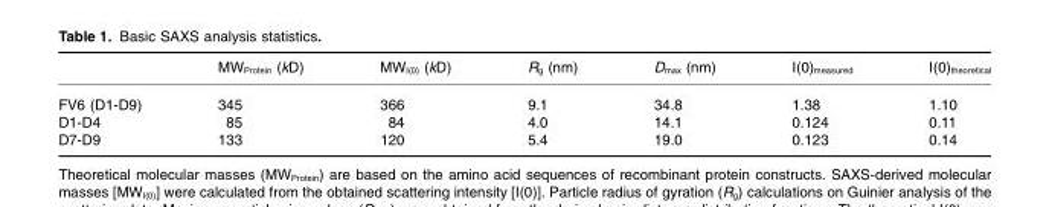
<table><thead><tr><td></td><td>MW<sub>Protein</sub> (kD)</td><td>MW<sub>I(0)</sub> (kD)</td><td>R<sub>g</sub> (nm)</td><td>D<sub>max</sub> (nm)</td><td>I(0)<sub>measured</sub></td><td>I(0)<sub>theoretical</sub></td></tr></thead><tbody><tr><td>FV6 (D1-D9)</td><td>345</td><td>366</td><td>9.1</td><td>34.8</td><td>1.38</td><td>1.10</td></tr><tr><td>D1-D4</td><td>85</td><td>84</td><td>4.0</td><td>14.1</td><td>0.124</td><td>0.11</td></tr><tr><td>D7-D9</td><td>133</td><td>120</td><td>5.4</td><td>19.0</td><td>0.123</td><td>0.14</td></tr></tbody></table>